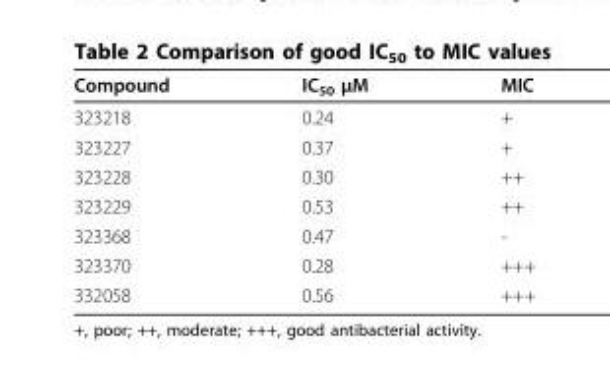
<table><thead><tr><td>Compound</td><td>IC<sub>50</sub> μM</td><td>MIC</td></tr></thead><tbody><tr><td>323218</td><td>0.24</td><td>+</td></tr><tr><td>323227</td><td>0.37</td><td>+</td></tr><tr><td>323228</td><td>0.30</td><td>++</td></tr><tr><td>323229</td><td>0.53</td><td>++</td></tr><tr><td>323368</td><td>0.47</td><td>-</td></tr><tr><td>323370</td><td>0.28</td><td>+++</td></tr><tr><td>332058</td><td>0.56</td><td>+++</td></tr></tbody></table>